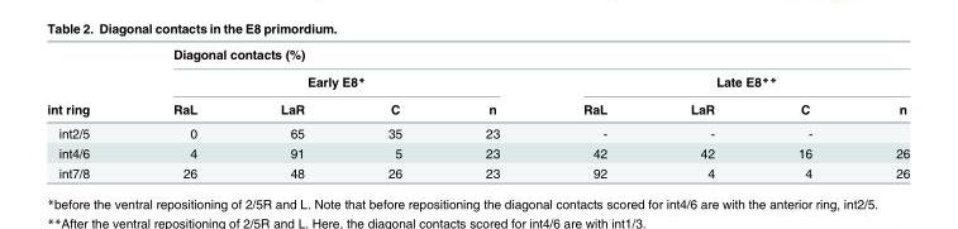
<table><thead><tr><td rowspan="3">int ring</td><td colspan="8">Diagonal contacts (%)</td></tr><tr><td colspan="4">Early E8*</td><td colspan="4">Late E8**</td></tr><tr><td>RaL</td><td>LaR</td><td>C</td><td>n</td><td>RaL</td><td>LaR</td><td>C</td><td>n</td></tr></thead><tbody><tr><td>int2/5</td><td>0</td><td>65</td><td>35</td><td>23</td><td>-</td><td>-</td><td>-</td><td></td></tr><tr><td>int4/6</td><td>4</td><td>91</td><td>5</td><td>23</td><td>42</td><td>42</td><td>16</td><td>26</td></tr><tr><td>int7/8</td><td>26</td><td>48</td><td>26</td><td>23</td><td>92</td><td>4</td><td>4</td><td>26</td></tr></tbody></table>